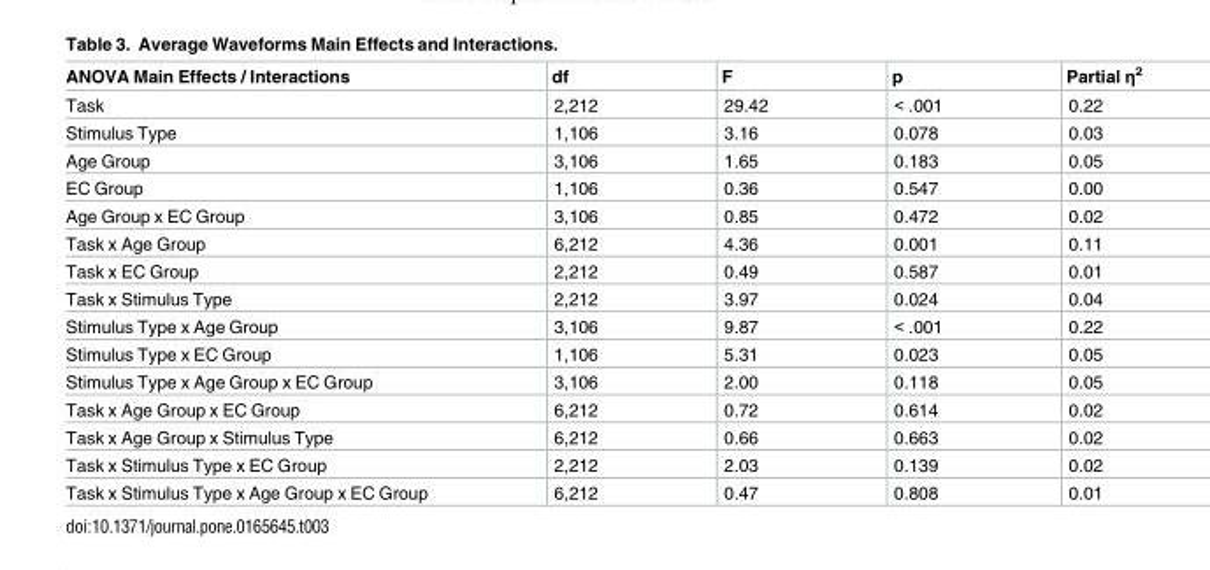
<table><thead><tr><td>ANOVA Main Effects / Interactions</td><td>df</td><td>F</td><td>p</td><td>Partial η<sup>2</sup></td></tr></thead><tbody><tr><td>Task</td><td>2,212</td><td>29.42</td><td>&lt; .001</td><td>0.22</td></tr><tr><td>Stimulus Type</td><td>1,106</td><td>3.16</td><td>0.078</td><td>0.03</td></tr><tr><td>Age Group</td><td>3,106</td><td>1.65</td><td>0.183</td><td>0.05</td></tr><tr><td>EC Group</td><td>1,106</td><td>0.36</td><td>0.547</td><td>0.00</td></tr><tr><td>Age Group x EC Group</td><td>3,106</td><td>0.85</td><td>0.472</td><td>0.02</td></tr><tr><td>Task x Age Group</td><td>6,212</td><td>4.36</td><td>0.001</td><td>0.11</td></tr><tr><td>Task x EC Group</td><td>2,212</td><td>0.49</td><td>0.587</td><td>0.01</td></tr><tr><td>Task x Stimulus Type</td><td>2,212</td><td>3.97</td><td>0.024</td><td>0.04</td></tr><tr><td>Stimulus Type x Age Group</td><td>3,106</td><td>9.87</td><td>&lt; .001</td><td>0.22</td></tr><tr><td>Stimulus Type x EC Group</td><td>1,106</td><td>5.31</td><td>0.023</td><td>0.05</td></tr><tr><td>Stimulus Type x Age Group x EC Group</td><td>3,106</td><td>2.00</td><td>0.118</td><td>0.05</td></tr><tr><td>Task x Age Group x EC Group</td><td>6,212</td><td>0.72</td><td>0.614</td><td>0.02</td></tr><tr><td>Task x Age Group x Stimulus Type</td><td>6,212</td><td>0.66</td><td>0.663</td><td>0.02</td></tr><tr><td>Task x Stimulus Type x EC Group</td><td>2,212</td><td>2.03</td><td>0.139</td><td>0.02</td></tr><tr><td>Task x Stimulus Type x Age Group x EC Group</td><td>6,212</td><td>0.47</td><td>0.808</td><td>0.01</td></tr></tbody></table>